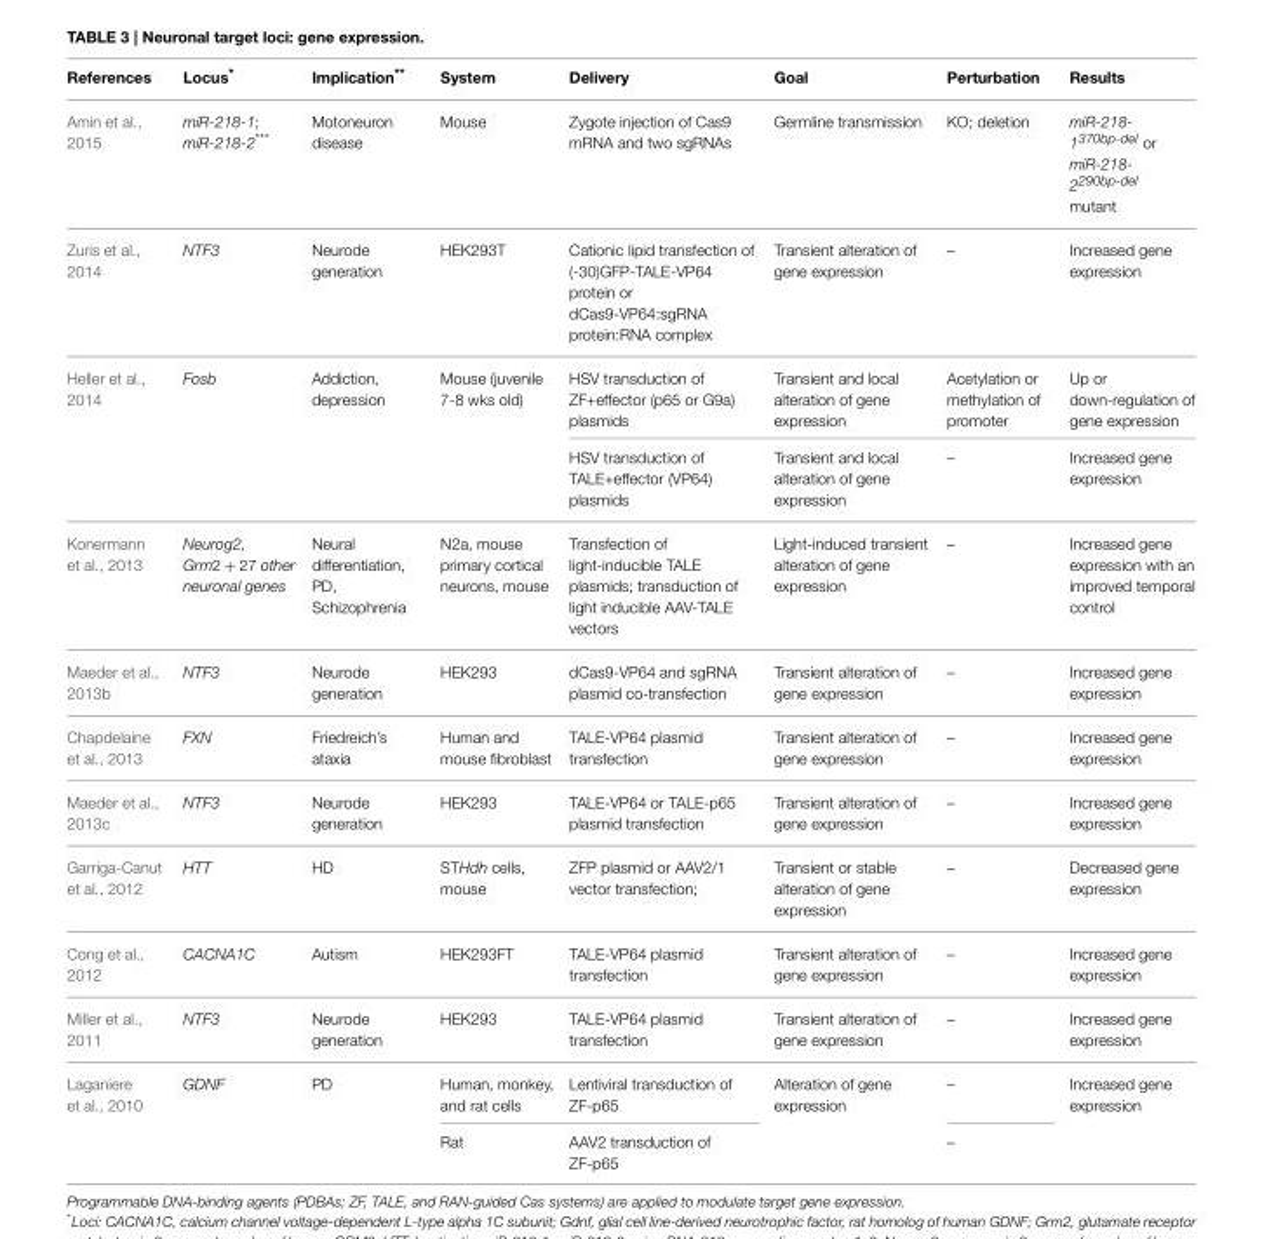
<table><thead><tr><td>References</td><td>Locus*</td><td>Implication**</td><td>System</td><td>Delivery</td><td>Goal</td><td>Perturbation</td><td>Results</td></tr></thead><tbody><tr><td>Amin et al., 2015</td><td>miR-218-1; miR-218-2***</td><td>Motoneuron disease</td><td>Mouse</td><td>Zygote injection of Cas9 mRNA and two sgRNAs</td><td>Germline transmission</td><td>KO; deletion</td><td>miR-218- 1370bp-del or miR-218- 2290bp-del mutant</td></tr><tr><td>Zuris et al., 2014</td><td>NTF3</td><td>Neurode generation</td><td>HEK293T</td><td>Cationic lipid transfection of (-30)GFP-TALE-VP64 protein or dCas9-VP64:sgRNA protein:RNA complex</td><td>Transient alteration of gene expression</td><td>–</td><td>Increased gene expression</td></tr><tr><td rowspan="2">Heller et al., 2014</td><td>Fosb</td><td>Addiction, depression</td><td>Mouse (juvenile 7-8 wks old)</td><td>HSV transduction of ZF+effector (p65 or G9a) plasmids</td><td>Transient and local alteration of gene expression</td><td>Acetylation or methylation of promoter</td><td>Up or down-regulation of gene expression</td></tr><tr><td></td><td></td><td></td><td>HSV transduction of TALE+effector (VP64) plasmids</td><td>Transient and local alteration of gene expression</td><td>–</td><td>Increased gene expression</td></tr><tr><td>Konermann et al., 2013</td><td>Neurog2, Grm2 + 27 other neuronal genes</td><td>Neural differentiation, PD, Schizophrenia</td><td>N2a, mouse primary cortical neurons, mouse</td><td>Transfection of light-inducible TALE plasmids; transduction of light inducible AAV-TALE vectors</td><td>Light-induced transient alteration of gene expression</td><td>–</td><td>Increased gene expression with an improved temporal control</td></tr><tr><td>Maeder et al., 2013b</td><td>NTF3</td><td>Neurode generation</td><td>HEK293</td><td>dCas9-VP64 and sgRNA plasmid co-transfection</td><td>Transient alteration of gene expression</td><td>–</td><td>Increased gene expression</td></tr><tr><td>Chapdelaine et al., 2013</td><td>FXN</td><td>Friedreich’s ataxia</td><td>Human and mouse fibroblast</td><td>TALE-VP64 plasmid transfection</td><td>Transient alteration of gene expression</td><td>–</td><td>Increased gene expression</td></tr><tr><td>Maeder et al., 2013c</td><td>NTF3</td><td>Neurode generation</td><td>HEK293</td><td>TALE-VP64 or TALE-p65 plasmid transfection</td><td>Transient alteration of gene expression</td><td>–</td><td>Increased gene expression</td></tr><tr><td>Garriga-Canut et al., 2012</td><td>HTT</td><td>HD</td><td>STHdh cells, mouse</td><td>ZFP plasmid or AAV2/1 vector transfection;</td><td>Transient or stable alteration of gene expression</td><td>–</td><td>Decreased gene expression</td></tr><tr><td>Cong et al., 2012</td><td>CACNA1C</td><td>Autism</td><td>HEK293FT</td><td>TALE-VP64 plasmid transfection</td><td>Transient alteration of gene expression</td><td>–</td><td>Increased gene expression</td></tr><tr><td>Miller et al., 2011</td><td>NTF3</td><td>Neurode generation</td><td>HEK293</td><td>TALE-VP64 plasmid transfection</td><td>Transient alteration of gene expression</td><td>–</td><td>Increased gene expression</td></tr><tr><td rowspan="2">Laganiere et al., 2010</td><td>GDNF</td><td>PD</td><td>Human, monkey, and rat cells</td><td>Lentiviral transduction of ZF-p65</td><td>Alteration of gene expression</td><td>–</td><td>Increased gene expression</td></tr><tr><td></td><td></td><td>Rat</td><td>AAV2 transduction of ZF-p65</td><td></td><td>–</td><td></td></tr></tbody></table>